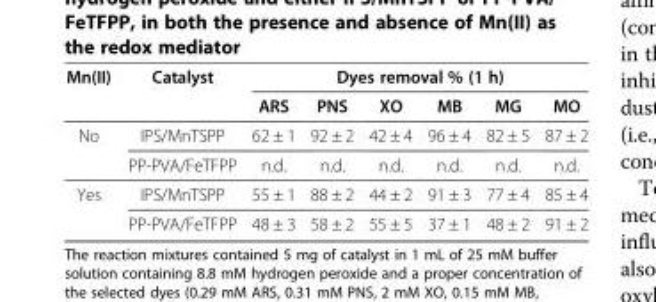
<table><thead><tr><td rowspan="2">Mn(II)</td><td rowspan="2">Catalyst</td><td colspan="6">Dyes removal % (1 h)</td></tr><tr><td>ARS</td><td>PNS</td><td>XO</td><td>MB</td><td>MG</td><td>MO</td></tr></thead><tbody><tr><td rowspan="2">No</td><td>IPS/MnTSPP</td><td>62 ± 1</td><td>92 ± 2</td><td>42 ± 4</td><td>96 ± 4</td><td>82 ± 5</td><td>87 ± 2</td></tr><tr><td>PP-PVA/FeTFPP</td><td>n.d.</td><td>n.d.</td><td>n.d.</td><td>n.d.</td><td>n.d.</td><td>n.d.</td></tr><tr><td rowspan="2">Yes</td><td>IPS/MnTSPP</td><td>55 ± 1</td><td>88 ± 2</td><td>44 ± 2</td><td>91 ± 3</td><td>77 ± 4</td><td>85 ± 4</td></tr><tr><td>PP-PVA/FeTFPP</td><td>48 ± 3</td><td>58 ± 2</td><td>55 ± 5</td><td>37 ± 1</td><td>48 ± 2</td><td>91 ± 2</td></tr></tbody></table>